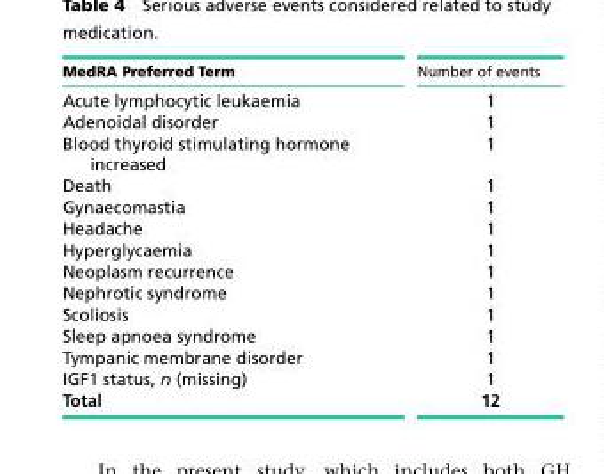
<table><thead><tr><td>MedRA Preferred Term</td><td>Number of events</td></tr></thead><tbody><tr><td>Acute lymphocytic leukaemia</td><td>1</td></tr><tr><td>Adenoidal disorder</td><td>1</td></tr><tr><td>Blood thyroid stimulating hormone increased</td><td>1</td></tr><tr><td>Death</td><td>1</td></tr><tr><td>Gynaecomastia</td><td>1</td></tr><tr><td>Headache</td><td>1</td></tr><tr><td>Hyperglycaemia</td><td>1</td></tr><tr><td>Neoplasm recurrence</td><td>1</td></tr><tr><td>Nephrotic syndrome</td><td>1</td></tr><tr><td>Scoliosis</td><td>1</td></tr><tr><td>Sleep apnoea syndrome</td><td>1</td></tr><tr><td>Tympanic membrane disorder</td><td>1</td></tr><tr><td>IGF1 status, n (missing)</td><td>1</td></tr><tr><td>Total</td><td>12</td></tr></tbody></table>